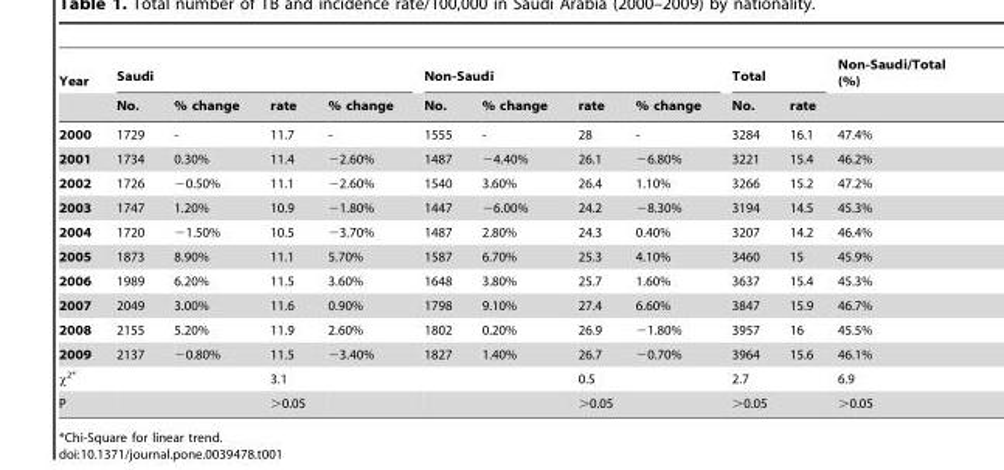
<table><thead><tr><td rowspan="2">Year</td><td colspan="4">Saudi</td><td colspan="4">Non-Saudi</td><td colspan="2">Total</td><td rowspan="2">Non-Saudi/Total (%)</td></tr><tr><td>No.</td><td>% change</td><td>rate</td><td>% change</td><td>No.</td><td>% change</td><td>rate</td><td>% change</td><td>No.</td><td>rate</td></tr></thead><tbody><tr><td>2000</td><td>1729</td><td>-</td><td>11.7</td><td>-</td><td>1555</td><td>-</td><td>28</td><td>-</td><td>3284</td><td>16.1</td><td>47.4%</td></tr><tr><td>2001</td><td>1734</td><td>0.30%</td><td>11.4</td><td>−2.60%</td><td>1487</td><td>−4.40%</td><td>26.1</td><td>−6.80%</td><td>3221</td><td>15.4</td><td>46.2%</td></tr><tr><td>2002</td><td>1726</td><td>−0.50%</td><td>11.1</td><td>−2.60%</td><td>1540</td><td>3.60%</td><td>26.4</td><td>1.10%</td><td>3266</td><td>15.2</td><td>47.2%</td></tr><tr><td>2003</td><td>1747</td><td>1.20%</td><td>10.9</td><td>−1.80%</td><td>1447</td><td>−6.00%</td><td>24.2</td><td>−8.30%</td><td>3194</td><td>14.5</td><td>45.3%</td></tr><tr><td>2004</td><td>1720</td><td>−1.50%</td><td>10.5</td><td>−3.70%</td><td>1487</td><td>2.80%</td><td>24.3</td><td>0.40%</td><td>3207</td><td>14.2</td><td>46.4%</td></tr><tr><td>2005</td><td>1873</td><td>8.90%</td><td>11.1</td><td>5.70%</td><td>1587</td><td>6.70%</td><td>25.3</td><td>4.10%</td><td>3460</td><td>15</td><td>45.9%</td></tr><tr><td>2006</td><td>1989</td><td>6.20%</td><td>11.5</td><td>3.60%</td><td>1648</td><td>3.80%</td><td>25.7</td><td>1.60%</td><td>3637</td><td>15.4</td><td>45.3%</td></tr><tr><td>2007</td><td>2049</td><td>3.00%</td><td>11.6</td><td>0.90%</td><td>1798</td><td>9.10%</td><td>27.4</td><td>6.60%</td><td>3847</td><td>15.9</td><td>46.7%</td></tr><tr><td>2008</td><td>2155</td><td>5.20%</td><td>11.9</td><td>2.60%</td><td>1802</td><td>0.20%</td><td>26.9</td><td>−1.80%</td><td>3957</td><td>16</td><td>45.5%</td></tr><tr><td>2009</td><td>2137</td><td>−0.80%</td><td>11.5</td><td>−3.40%</td><td>1827</td><td>1.40%</td><td>26.7</td><td>−0.70%</td><td>3964</td><td>15.6</td><td>46.1%</td></tr><tr><td>κ<sup>2</sup>*</td><td colspan="2"></td><td>3.1</td><td></td><td colspan="2"></td><td>0.5</td><td></td><td colspan="2">2.7</td><td>6.9</td></tr><tr><td>P</td><td colspan="2"></td><td>&gt;0.05</td><td></td><td colspan="2"></td><td>&gt;0.05</td><td></td><td colspan="2">&gt;0.05</td><td>&gt;0.05</td></tr></tbody></table>